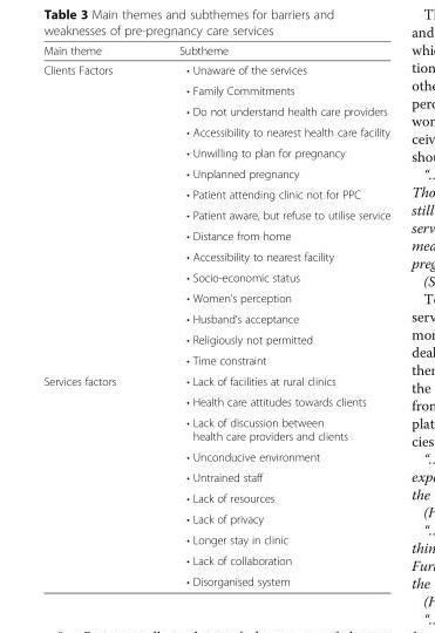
<table><thead><tr><td>Main theme</td><td>Subtheme</td></tr></thead><tbody><tr><td rowspan="15">Clients Factors</td><td>• Unaware of the services</td></tr><tr><td>• Family Commitments</td></tr><tr><td>• Do not understand health care providers</td></tr><tr><td>• Accessibility to nearest health care facility</td></tr><tr><td>• Unwilling to plan for pregnancy</td></tr><tr><td>• Unplanned pregnancy</td></tr><tr><td>• Patient attending clinic not for PPC</td></tr><tr><td>• Patient aware, but refuse to utilise service</td></tr><tr><td>• Distance from home</td></tr><tr><td>• Accessibility to nearest facility</td></tr><tr><td>• Socio-economic status</td></tr><tr><td>• Women’s perception</td></tr><tr><td>• Husband’s acceptance</td></tr><tr><td>• Religiously not permitted</td></tr><tr><td>• Time constraint</td></tr><tr><td rowspan="10">Services factors</td><td>• Lack of facilities at rural clinics</td></tr><tr><td>• Health care attitudes towards clients</td></tr><tr><td>• Lack of discussion between health care providers and clients</td></tr><tr><td>• Unconducive environment</td></tr><tr><td>• Untrained staff</td></tr><tr><td>• Lack of resources</td></tr><tr><td>• Lack of privacy</td></tr><tr><td>• Longer stay in clinic</td></tr><tr><td>• Lack of collaboration</td></tr><tr><td>• Disorganised system</td></tr></tbody></table>